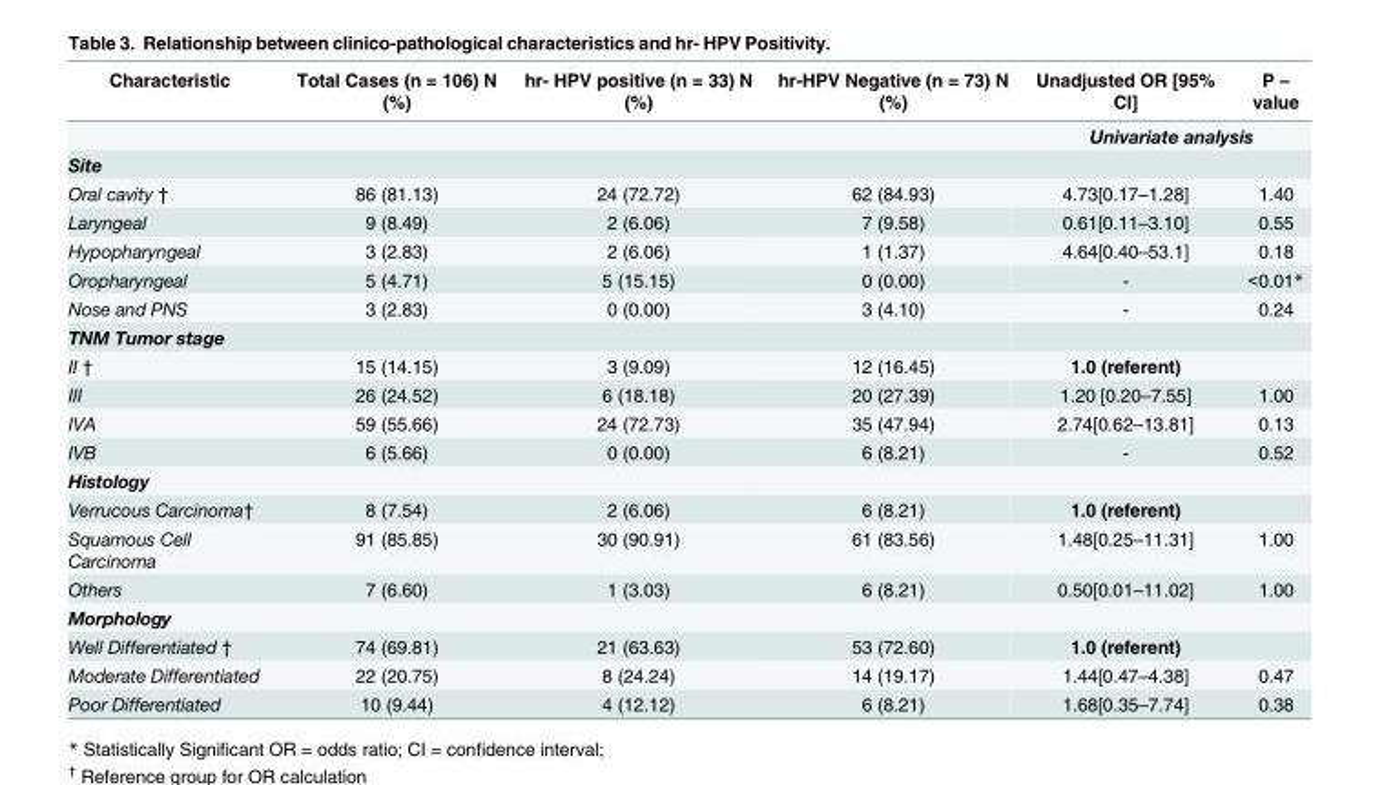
<table><thead><tr><td>Characteristic</td><td>Total Cases (n = 106) N (%)</td><td>hr- HPV positive (n = 33) N (%)</td><td>hr-HPV Negative (n = 73) N (%)</td><td>Unadjusted OR [95% CI]</td><td>P – value</td></tr></thead><tbody><tr><td colspan="4"></td><td colspan="2">Univariate analysis</td></tr><tr><td colspan="6">Site</td></tr><tr><td>Oral cavity †</td><td>86 (81.13)</td><td>24 (72.72)</td><td>62 (84.93)</td><td>4.73[0.17–1.28]</td><td>1.40</td></tr><tr><td>Laryngeal</td><td>9 (8.49)</td><td>2 (6.06)</td><td>7 (9.58)</td><td>0.61[0.11–3.10]</td><td>0.55</td></tr><tr><td>Hypopharyngeal</td><td>3 (2.83)</td><td>2 (6.06)</td><td>1 (1.37)</td><td>4.64[0.40–53.1]</td><td>0.18</td></tr><tr><td>Oropharyngeal</td><td>5 (4.71)</td><td>5 (15.15)</td><td>0 (0.00)</td><td>-</td><td>&lt;0.01*</td></tr><tr><td>Nose and PNS</td><td>3 (2.83)</td><td>0 (0.00)</td><td>3 (4.10)</td><td>-</td><td>0.24</td></tr><tr><td colspan="6">TNM Tumor stage</td></tr><tr><td>II †</td><td>15 (14.15)</td><td>3 (9.09)</td><td>12 (16.45)</td><td>1.0 (referent)</td><td></td></tr><tr><td>III</td><td>26 (24.52)</td><td>6 (18.18)</td><td>20 (27.39)</td><td>1.20 [0.20–7.55]</td><td>1.00</td></tr><tr><td>IVA</td><td>59 (55.66)</td><td>24 (72.73)</td><td>35 (47.94)</td><td>2.74[0.62–13.81]</td><td>0.13</td></tr><tr><td>IVB</td><td>6 (5.66)</td><td>0 (0.00)</td><td>6 (8.21)</td><td>-</td><td>0.52</td></tr><tr><td colspan="6">Histology</td></tr><tr><td>Verrucous Carcinoma†</td><td>8 (7.54)</td><td>2 (6.06)</td><td>6 (8.21)</td><td>1.0 (referent)</td><td></td></tr><tr><td>Squamous Cell Carcinoma</td><td>91 (85.85)</td><td>30 (90.91)</td><td>61 (83.56)</td><td>1.48[0.25–11.31]</td><td>1.00</td></tr><tr><td>Others</td><td>7 (6.60)</td><td>1 (3.03)</td><td>6 (8.21)</td><td>0.50[0.01–11.02]</td><td>1.00</td></tr><tr><td colspan="6">Morphology</td></tr><tr><td>Well Differentiated †</td><td>74 (69.81)</td><td>21 (63.63)</td><td>53 (72.60)</td><td>1.0 (referent)</td><td></td></tr><tr><td>Moderate Differentiated</td><td>22 (20.75)</td><td>8 (24.24)</td><td>14 (19.17)</td><td>1.44[0.47–4.38]</td><td>0.47</td></tr><tr><td>Poor Differentiated</td><td>10 (9.44)</td><td>4 (12.12)</td><td>6 (8.21)</td><td>1.68[0.35–7.74]</td><td>0.38</td></tr></tbody></table>